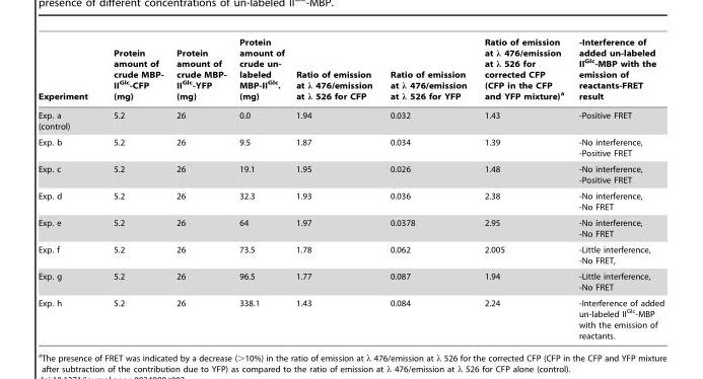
<table><thead><tr><td>Experiment</td><td>Protein amount of crude MBP- II<sup>Glc</sup>-CFP (mg)</td><td>Protein amount of crude MBP- II<sup>Glc</sup>-YFP (mg)</td><td>Protein amount of crude un- labeled MBP-II<sup>Glc</sup>. (mg)</td><td>Ratio of emission at λ 476/emission at λ 526 for CFP</td><td>Ratio of emission at λ 476/emission at λ 526 for YFP</td><td>Ratio of emission at λ 476/emission at λ 526 for corrected CFP (CFP in the CFP and YFP mixture)<sup>a</sup></td><td>-Interference of added un-labeled II<sup>Glc</sup>-MBP with the emission of reactants-FRET result</td></tr></thead><tbody><tr><td>Exp. a (control)</td><td>5.2</td><td>26</td><td>0.0</td><td>1.94</td><td>0.032</td><td>1.43</td><td>-Positive FRET</td></tr><tr><td>Exp. b</td><td>5.2</td><td>26</td><td>9.5</td><td>1.87</td><td>0.034</td><td>1.39</td><td>-No interference, -Positive FRET</td></tr><tr><td>Exp. c</td><td>5.2</td><td>26</td><td>19.1</td><td>1.95</td><td>0.026</td><td>1.48</td><td>-No interference, -Positive FRET</td></tr><tr><td>Exp. d</td><td>5.2</td><td>26</td><td>32.3</td><td>1.93</td><td>0.036</td><td>2.38</td><td>-No interference, -No FRET</td></tr><tr><td>Exp. e</td><td>5.2</td><td>26</td><td>64</td><td>1.97</td><td>0.0378</td><td>2.95</td><td>-No interference, -No FRET</td></tr><tr><td>Exp. f</td><td>5.2</td><td>26</td><td>73.5</td><td>1.78</td><td>0.062</td><td>2.005</td><td>-Little interference, -No FRET,</td></tr><tr><td>Exp. g</td><td>5.2</td><td>26</td><td>96.5</td><td>1.77</td><td>0.087</td><td>1.94</td><td>-Little interference, -No FRET</td></tr><tr><td>Exp. h</td><td>5.2</td><td>26</td><td>338.1</td><td>1.43</td><td>0.084</td><td>2.24</td><td>-Interference of added un-labeled II<sup>Glc</sup>-MBP with the emission of reactants.</td></tr></tbody></table>